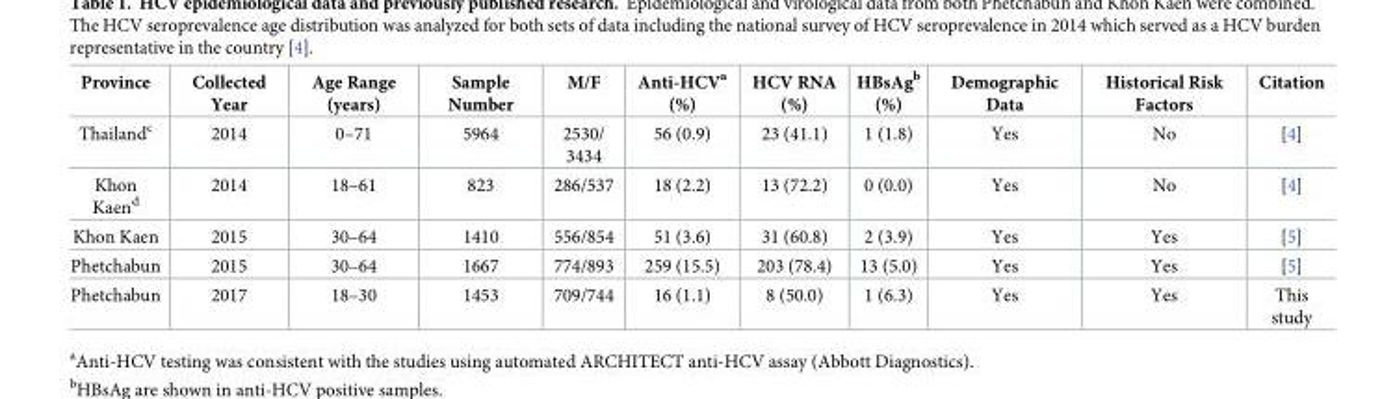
<table><thead><tr><td>Province</td><td>Collected Year</td><td>Age Range (years)</td><td>Sample Number</td><td>M/F</td><td>Anti-HCV<sup>a</sup> (%)</td><td>HCV RNA (%)</td><td>HBsAg<sup>b</sup> (%)</td><td>Demographic Data</td><td>Historical Risk Factors</td><td>Citation</td></tr></thead><tbody><tr><td>Thailand<sup>c</sup></td><td>2014</td><td>0–71</td><td>5964</td><td>2530/ 3434</td><td>56 (0.9)</td><td>23 (41.1)</td><td>1 (1.8)</td><td>Yes</td><td>No</td><td>[4]</td></tr><tr><td>Khon Kaen<sup>d</sup></td><td>2014</td><td>18–61</td><td>823</td><td>286/537</td><td>18 (2.2)</td><td>13 (72.2)</td><td>0 (0.0)</td><td>Yes</td><td>No</td><td>[4]</td></tr><tr><td>Khon Kaen</td><td>2015</td><td>30–64</td><td>1410</td><td>556/854</td><td>51 (3.6)</td><td>31 (60.8)</td><td>2 (3.9)</td><td>Yes</td><td>Yes</td><td>[5]</td></tr><tr><td>Phetchabun</td><td>2015</td><td>30–64</td><td>1667</td><td>774/893</td><td>259 (15.5)</td><td>203 (78.4)</td><td>13 (5.0)</td><td>Yes</td><td>Yes</td><td>[5]</td></tr><tr><td>Phetchabun</td><td>2017</td><td>18–30</td><td>1453</td><td>709/744</td><td>16 (1.1)</td><td>8 (50.0)</td><td>1 (6.3)</td><td>Yes</td><td>Yes</td><td>This study</td></tr></tbody></table>